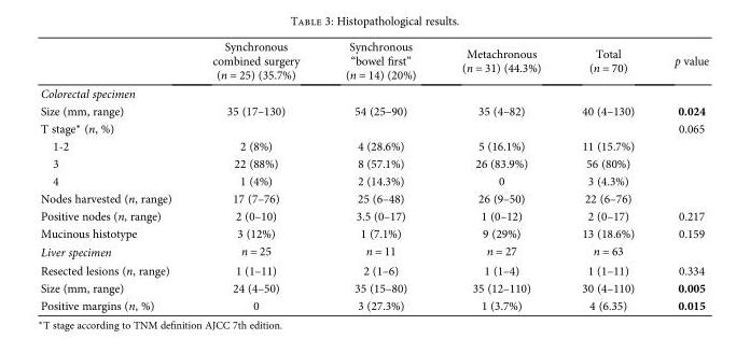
<table><thead><tr><td></td><td>Synchronous combined surgery (n = 25) (35.7%)</td><td>Synchronous “bowel first” (n = 14) (20%)</td><td>Metachronous (n = 31) (44.3%)</td><td>Total (n = 70)</td><td>p value</td></tr></thead><tbody><tr><td colspan="6">Colorectal specimen</td></tr><tr><td>Size (mm, range)</td><td>35 (17–130)</td><td>54 (25–90)</td><td>35 (4–82)</td><td>40 (4–130)</td><td>0.024</td></tr><tr><td>T stage∗ (n, %)</td><td></td><td></td><td></td><td></td><td>0.065</td></tr><tr><td>1-2</td><td>2 (8%)</td><td>4 (28.6%)</td><td>5 (16.1%)</td><td>11 (15.7%)</td><td></td></tr><tr><td>3</td><td>22 (88%)</td><td>8 (57.1%)</td><td>26 (83.9%)</td><td>56 (80%)</td><td></td></tr><tr><td>4</td><td>1 (4%)</td><td>2 (14.3%)</td><td>0</td><td>3 (4.3%)</td><td></td></tr><tr><td>Nodes harvested (n, range)</td><td>17 (7–76)</td><td>25 (6–48)</td><td>26 (9–50)</td><td>22 (6–76)</td><td></td></tr><tr><td>Positive nodes (n, range)</td><td>2 (0–10)</td><td>3.5 (0–17)</td><td>1 (0–12)</td><td>2 (0–17)</td><td>0.217</td></tr><tr><td>Mucinous histotype</td><td>3 (12%)</td><td>1 (7.1%)</td><td>9 (29%)</td><td>13 (18.6%)</td><td>0.159</td></tr><tr><td>Liver specimen</td><td>n = 25</td><td>n = 11</td><td>n = 27</td><td>n = 63</td><td></td></tr><tr><td>Resected lesions (n, range)</td><td>1 (1–11)</td><td>2 (1–6)</td><td>1 (1–4)</td><td>1 (1–11)</td><td>0.334</td></tr><tr><td>Size (mm, range)</td><td>24 (4–50)</td><td>35 (15–80)</td><td>35 (12–110)</td><td>30 (4–110)</td><td>0.005</td></tr><tr><td>Positive margins (n, %)</td><td>0</td><td>3 (27.3%)</td><td>1 (3.7%)</td><td>4 (6.35)</td><td>0.015</td></tr></tbody></table>